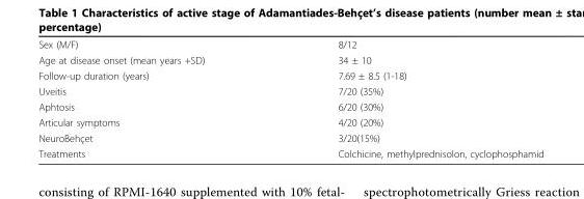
<table><tbody><tr><td>Sex (M/F)</td><td>8/12</td></tr><tr><td>Age at disease onset (mean years +SD)</td><td>34 ± 10</td></tr><tr><td>Follow-up duration (years)</td><td>7.69 ± 8.5 (1-18)</td></tr><tr><td>Uveitis</td><td>7/20 (35%)</td></tr><tr><td>Aphtosis</td><td>6/20 (30%)</td></tr><tr><td>Articular symptoms</td><td>4/20 (20%)</td></tr><tr><td>NeuroBehçet</td><td>3/20(15%)</td></tr><tr><td>Treatments</td><td>Colchicine, methylprednisolon, cyclophosphamid</td></tr></tbody></table>